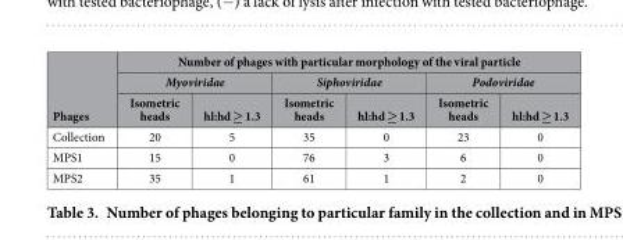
<table><thead><tr><td rowspan="3">Phages</td><td colspan="6">Number of phages with particular morphology of the viral particle</td></tr><tr><td colspan="2">Myoviridae</td><td colspan="2">Siphoviridae</td><td colspan="2">Podoviridae</td></tr><tr><td>Isometric heads</td><td>hl:hd ≥ 1.3</td><td>Isometric heads</td><td>hl:hd ≥ 1.3</td><td>Isometric heads</td><td>hl:hd ≥ 1.3</td></tr></thead><tbody><tr><td>Collection</td><td>20</td><td>5</td><td>35</td><td>0</td><td>23</td><td>0</td></tr><tr><td>MPS1</td><td>15</td><td>0</td><td>76</td><td>3</td><td>6</td><td>0</td></tr><tr><td>MPS2</td><td>35</td><td>1</td><td>61</td><td>1</td><td>2</td><td>0</td></tr></tbody></table>